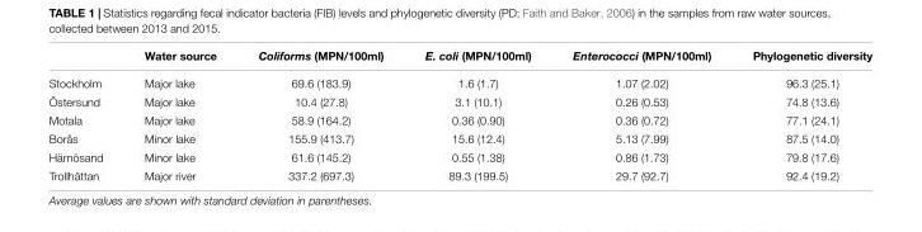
<table><thead><tr><td></td><td>Water source</td><td>Coliforms (MPN/100ml)</td><td>E. coli (MPN/100ml)</td><td>Enterococci (MPN/100ml)</td><td>Phylogenetic diversity</td></tr></thead><tbody><tr><td>Stockholm</td><td>Major lake</td><td>69.6 (183.9)</td><td>1.6 (1.7)</td><td>1.07 (2.02)</td><td>96.3 (25.1)</td></tr><tr><td>Östersund</td><td>Major lake</td><td>10.4 (27.8)</td><td>3.1 (10.1)</td><td>0.26 (0.53)</td><td>74.8 (13.6)</td></tr><tr><td>Motala</td><td>Major lake</td><td>58.9 (164.2)</td><td>0.36 (0.90)</td><td>0.36 (0.72)</td><td>77.1 (24.1)</td></tr><tr><td>Borås</td><td>Minor lake</td><td>155.9 (413.7)</td><td>15.6 (12.4)</td><td>5.13 (7.99)</td><td>87.5 (14.0)</td></tr><tr><td>Härnösand</td><td>Minor lake</td><td>61.6 (145.2)</td><td>0.55 (1.38)</td><td>0.86 (1.73)</td><td>79.8 (17.6)</td></tr><tr><td>Trollhättan</td><td>Major river</td><td>337.2 (697.3)</td><td>89.3 (199.5)</td><td>29.7 (92.7)</td><td>92.4 (19.2)</td></tr></tbody></table>